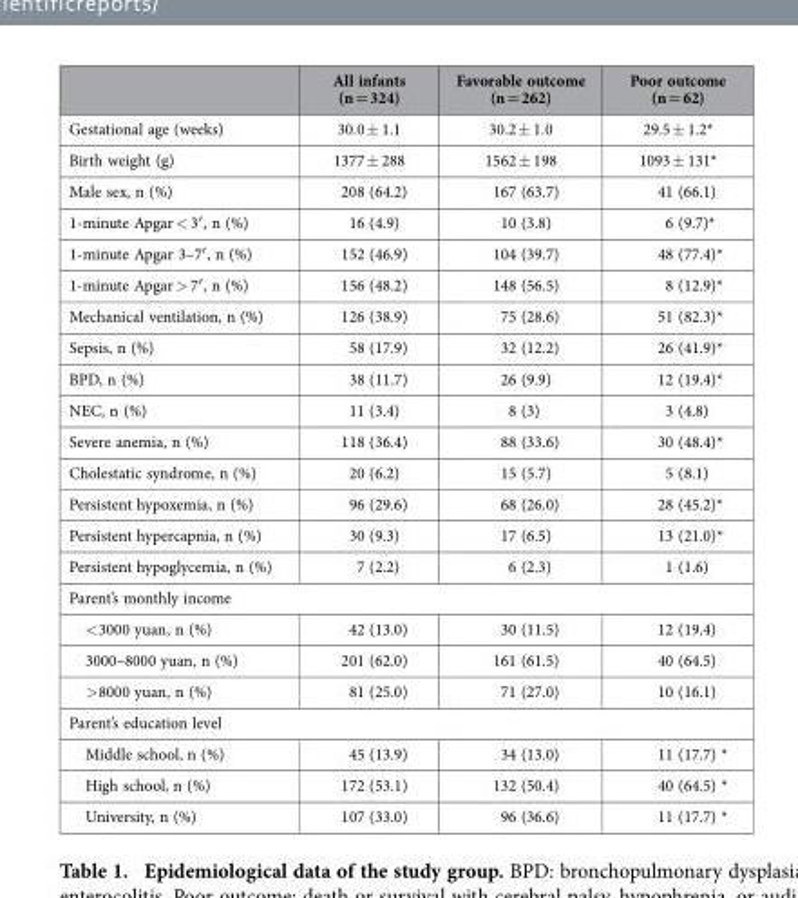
<table><thead><tr><td></td><td>All infants (n = 324)</td><td>Favorable outcome (n = 262)</td><td>Poor outcome (n = 62)</td></tr></thead><tbody><tr><td>Gestational age (weeks)</td><td>30.0 ± 1.1</td><td>30.2 ± 1.0</td><td>29.5 ± 1.2*</td></tr><tr><td>Birth weight (g)</td><td>1377 ± 288</td><td>1562 ± 198</td><td>1093 ± 131*</td></tr><tr><td>Male sex, n (%)</td><td>208 (64.2)</td><td>167 (63.7)</td><td>41 (66.1)</td></tr><tr><td>1-minute Apgar &lt; 3′ , n (%)</td><td>16 (4.9)</td><td>10 (3.8)</td><td>6 (9.7)*</td></tr><tr><td>1-minute Apgar 3–7′ , n (%)</td><td>152 (46.9)</td><td>104 (39.7)</td><td>48 (77.4)*</td></tr><tr><td>1-minute Apgar &gt; 7′ , n (%)</td><td>156 (48.2)</td><td>148 (56.5)</td><td>8 (12.9)*</td></tr><tr><td>Mechanical ventilation, n (%)</td><td>126 (38.9)</td><td>75 (28.6)</td><td>51 (82.3)*</td></tr><tr><td>Sepsis, n (%)</td><td>58 (17.9)</td><td>32 (12.2)</td><td>26 (41.9)*</td></tr><tr><td>BPD, n (%)</td><td>38 (11.7)</td><td>26 (9.9)</td><td>12 (19.4)*</td></tr><tr><td>NEC, n (%)</td><td>11 (3.4)</td><td>8 (3)</td><td>3 (4.8)</td></tr><tr><td>Severe anemia, n (%)</td><td>118 (36.4)</td><td>88 (33.6)</td><td>30 (48.4)*</td></tr><tr><td>Cholestatic syndrome, n (%)</td><td>20 (6.2)</td><td>15 (5.7)</td><td>5 (8.1)</td></tr><tr><td>Persistent hypoxemia, n (%)</td><td>96 (29.6)</td><td>68 (26.0)</td><td>28 (45.2)*</td></tr><tr><td>Persistent hypercapnia, n (%)</td><td>30 (9.3)</td><td>17 (6.5)</td><td>13 (21.0)*</td></tr><tr><td>Persistent hypoglycemia, n (%)</td><td>7 (2.2)</td><td>6 (2.3)</td><td>1 (1.6)</td></tr><tr><td colspan="4">Parent’s monthly income</td></tr><tr><td>&lt; 3000 yuan, n (%)</td><td>42 (13.0)</td><td>30 (11.5)</td><td>12 (19.4)</td></tr><tr><td>3000–8000 yuan, n (%)</td><td>201 (62.0)</td><td>161 (61.5)</td><td>40 (64.5)</td></tr><tr><td>&gt; 8000 yuan, n (%)</td><td>81 (25.0)</td><td>71 (27.0)</td><td>10 (16.1)</td></tr><tr><td colspan="4">Parent’s education level</td></tr><tr><td>Middle school, n (%)</td><td>45 (13.9)</td><td>34 (13.0)</td><td>11 (17.7) *</td></tr><tr><td>High school, n (%)</td><td>172 (53.1)</td><td>132 (50.4)</td><td>40 (64.5) *</td></tr><tr><td>University, n (%)</td><td>107 (33.0)</td><td>96 (36.6)</td><td>11 (17.7) *</td></tr></tbody></table>